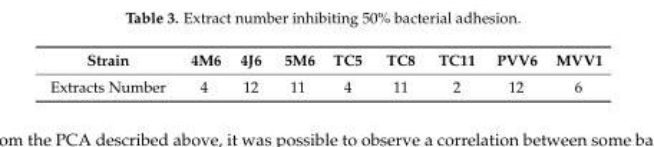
<table><thead><tr><td>Strain</td><td>4M6</td><td>4J6</td><td>5M6</td><td>TC5</td><td>TC8</td><td>TC11</td><td>PVV6</td><td>MVV1</td></tr></thead><tbody><tr><td>Extracts Number</td><td>4</td><td>12</td><td>11</td><td>4</td><td>11</td><td>2</td><td>12</td><td>6</td></tr></tbody></table>